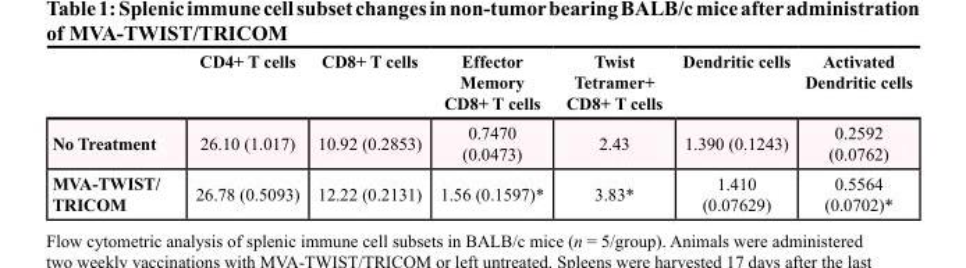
<table><thead><tr><td></td><td>CD4+ T cells</td><td>CD8+ T cells</td><td>Effector Memory CD8+ T cells</td><td>Twist Tetramer+ CD8+ T cells</td><td>Dendritic cells</td><td>Activated Dendritic cells</td></tr></thead><tbody><tr><td>No Treatment</td><td>26.10 (1.017)</td><td>10.92 (0.2853)</td><td>0.7470 (0.0473)</td><td>2.43</td><td>1.390 (0.1243)</td><td>0.2592 (0.0762)</td></tr><tr><td>MVA-TWIST/ TRICOM</td><td>26.78 (0.5093)</td><td>12.22 (0.2131)</td><td>1.56 (0.1597)*</td><td>3.83*</td><td>1.410 (0.07629)</td><td>0.5564 (0.0702)*</td></tr></tbody></table>